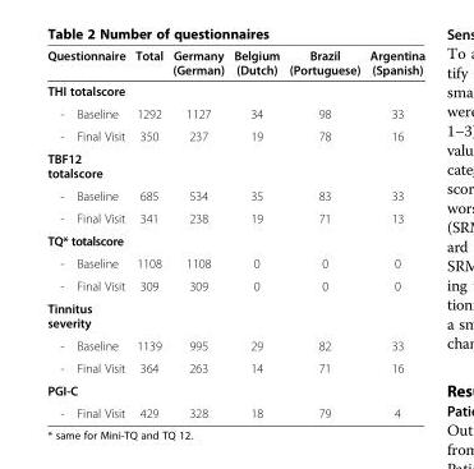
<table><thead><tr><td>Questionnaire</td><td>Total</td><td>Germany (German)</td><td>Belgium (Dutch)</td><td>Brazil (Portuguese)</td><td>Argentina (Spanish)</td></tr></thead><tbody><tr><td colspan="6">THI totalscore</td></tr><tr><td>- Baseline</td><td>1292</td><td>1127</td><td>34</td><td>98</td><td>33</td></tr><tr><td>- Final Visit</td><td>350</td><td>237</td><td>19</td><td>78</td><td>16</td></tr><tr><td colspan="6">TBF12 totalscore</td></tr><tr><td>- Baseline</td><td>685</td><td>534</td><td>35</td><td>83</td><td>33</td></tr><tr><td>- Final Visit</td><td>341</td><td>238</td><td>19</td><td>71</td><td>13</td></tr><tr><td colspan="6">TQ* totalscore</td></tr><tr><td>- Baseline</td><td>1108</td><td>1108</td><td>0</td><td>0</td><td>0</td></tr><tr><td>- Final Visit</td><td>309</td><td>309</td><td>0</td><td>0</td><td>0</td></tr><tr><td colspan="6">Tinnitus severity</td></tr><tr><td>- Baseline</td><td>1139</td><td>995</td><td>29</td><td>82</td><td>33</td></tr><tr><td>- Final Visit</td><td>364</td><td>263</td><td>14</td><td>71</td><td>16</td></tr><tr><td colspan="6">PGI-C</td></tr><tr><td>- Final Visit</td><td>429</td><td>328</td><td>18</td><td>79</td><td>4</td></tr></tbody></table>